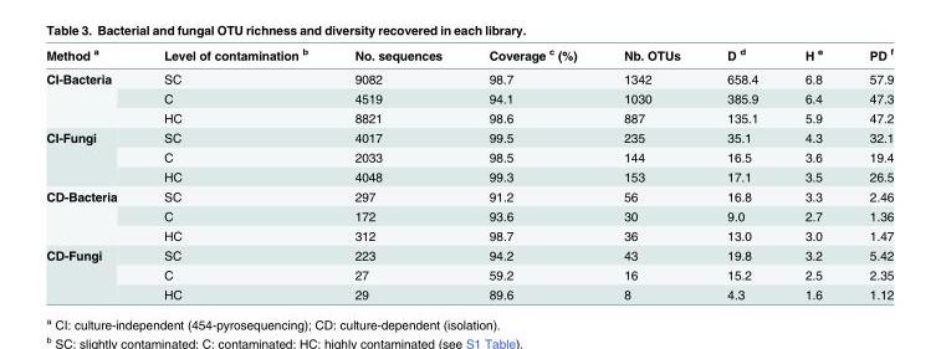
<table><thead><tr><td>Method <sup>a</sup></td><td>Level of contamination <sup>b</sup></td><td>No. sequences</td><td>Coverage <sup>c</sup> (%)</td><td>Nb. OTUs</td><td>D <sup>d</sup></td><td>H <sup>e</sup></td><td>PD <sup>f</sup></td></tr></thead><tbody><tr><td rowspan="3">CI-Bacteria</td><td>SC</td><td>9082</td><td>98.7</td><td>1342</td><td>658.4</td><td>6.8</td><td>57.9</td></tr><tr><td>C</td><td>4519</td><td>94.1</td><td>1030</td><td>385.9</td><td>6.4</td><td>47.3</td></tr><tr><td>HC</td><td>8821</td><td>98.6</td><td>887</td><td>135.1</td><td>5.9</td><td>47.2</td></tr><tr><td rowspan="3">CI-Fungi</td><td>SC</td><td>4017</td><td>99.5</td><td>235</td><td>35.1</td><td>4.3</td><td>32.1</td></tr><tr><td>C</td><td>2033</td><td>98.5</td><td>144</td><td>16.5</td><td>3.6</td><td>19.4</td></tr><tr><td>HC</td><td>4048</td><td>99.3</td><td>153</td><td>17.1</td><td>3.5</td><td>26.5</td></tr><tr><td rowspan="3">CD-Bacteria</td><td>SC</td><td>297</td><td>91.2</td><td>56</td><td>16.8</td><td>3.3</td><td>2.46</td></tr><tr><td>C</td><td>172</td><td>93.6</td><td>30</td><td>9.0</td><td>2.7</td><td>1.36</td></tr><tr><td>HC</td><td>312</td><td>98.7</td><td>36</td><td>13.0</td><td>3.0</td><td>1.47</td></tr><tr><td rowspan="3">CD-Fungi</td><td>SC</td><td>223</td><td>94.2</td><td>43</td><td>19.8</td><td>3.2</td><td>5.42</td></tr><tr><td>C</td><td>27</td><td>59.2</td><td>16</td><td>15.2</td><td>2.5</td><td>2.35</td></tr><tr><td>HC</td><td>29</td><td>89.6</td><td>8</td><td>4.3</td><td>1.6</td><td>1.12</td></tr></tbody></table>